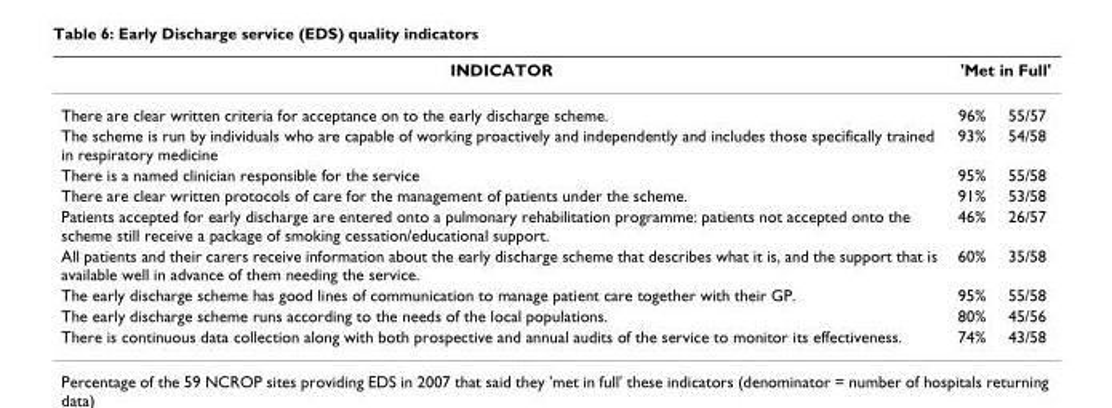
<table><thead><tr><td rowspan="2">INDICATOR There are clear written criteria for acceptance on to the early discharge scheme.</td><td colspan="2">&#x27;Met in Full&#x27;</td></tr><tr><td>96%</td><td>55/57</td></tr></thead><tbody><tr><td>The scheme is run by individuals who are capable of working proactively and independently and includes those specifically trained in respiratory medicine</td><td>93%</td><td>54/58</td></tr><tr><td>There is a named clinician responsible for the service</td><td>95%</td><td>55/58</td></tr><tr><td>There are clear written protocols of care for the management of patients under the scheme.</td><td>91%</td><td>53/58</td></tr><tr><td>Patients accepted for early discharge are entered onto a pulmonary rehabilitation programme: patients not accepted onto the scheme still receive a package of smoking cessation/educational support.</td><td>46%</td><td>26/57</td></tr><tr><td>All patients and their carers receive information about the early discharge scheme that describes what it is, and the support that is available well in advance of them needing the service.</td><td>60%</td><td>35/58</td></tr><tr><td>The early discharge scheme has good lines of communication to manage patient care together with their GP.</td><td>95%</td><td>55/58</td></tr><tr><td>The early discharge scheme runs according to the needs of the local populations.</td><td>80%</td><td>45/56</td></tr><tr><td>There is continuous data collection along with both prospective and annual audits of the service to monitor its effectiveness.</td><td>74%</td><td>43/58</td></tr></tbody></table>